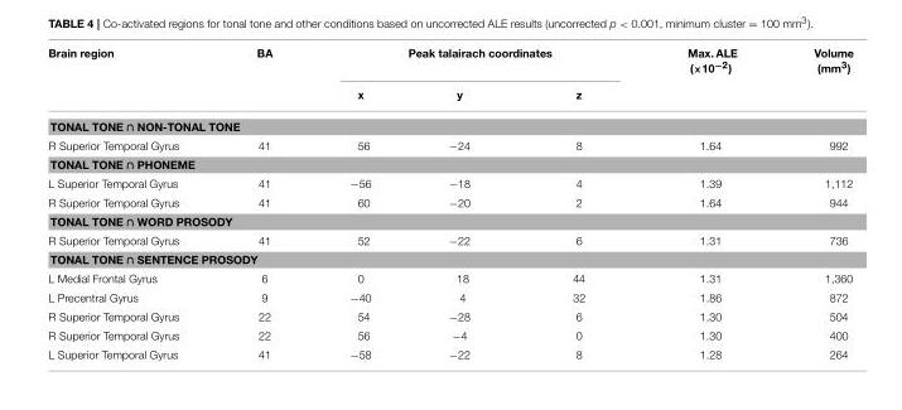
<table><thead><tr><td rowspan="2">Brain region</td><td rowspan="2">BA</td><td colspan="3">Peak talairach coordinates</td><td rowspan="2">Max. ALE (×10<sup>−2</sup>)</td><td rowspan="2">Volume (mm<sup>3</sup>)</td></tr><tr><td>x</td><td>y</td><td>z</td></tr></thead><tbody><tr><td colspan="7">TONAL TONE ∩ NON-TONAL TONE</td></tr><tr><td>R Superior Temporal Gyrus</td><td>41</td><td>56</td><td>−24</td><td>8</td><td>1.64</td><td>992</td></tr><tr><td colspan="7">TONAL TONE ∩ PHONEME</td></tr><tr><td>L Superior Temporal Gyrus</td><td>41</td><td>−56</td><td>−18</td><td>4</td><td>1.39</td><td>1,112</td></tr><tr><td>R Superior Temporal Gyrus</td><td>41</td><td>60</td><td>−20</td><td>2</td><td>1.64</td><td>944</td></tr><tr><td colspan="7">TONAL TONE ∩ WORD PROSODY</td></tr><tr><td>R Superior Temporal Gyrus</td><td>41</td><td>52</td><td>−22</td><td>6</td><td>1.31</td><td>736</td></tr><tr><td colspan="7">TONAL TONE ∩ SENTENCE PROSODY</td></tr><tr><td>L Medial Frontal Gyrus</td><td>6</td><td>0</td><td>18</td><td>44</td><td>1.31</td><td>1,360</td></tr><tr><td>L Precentral Gyrus</td><td>9</td><td>−40</td><td>4</td><td>32</td><td>1.86</td><td>872</td></tr><tr><td>R Superior Temporal Gyrus</td><td>22</td><td>54</td><td>−28</td><td>6</td><td>1.30</td><td>504</td></tr><tr><td>R Superior Temporal Gyrus</td><td>22</td><td>56</td><td>−4</td><td>0</td><td>1.30</td><td>400</td></tr><tr><td>L Superior Temporal Gyrus</td><td>41</td><td>−58</td><td>−22</td><td>8</td><td>1.28</td><td>264</td></tr></tbody></table>